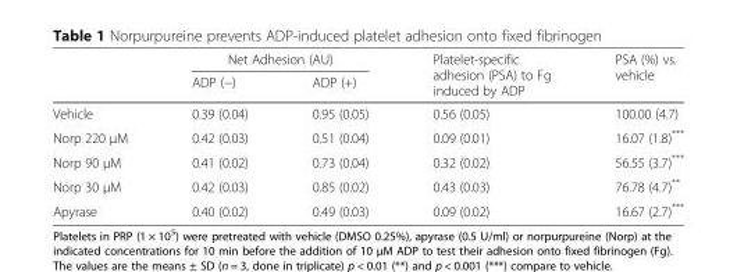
<table><thead><tr><td rowspan="2"></td><td colspan="2">Net Adhesion (AU)</td><td rowspan="2">Platelet-specific adhesion (PSA) to Fg induced by ADP</td><td rowspan="2">PSA (%) vs. vehicle</td></tr><tr><td>ADP (−)</td><td>ADP (+)</td></tr></thead><tbody><tr><td>Vehicle</td><td>0.39 (0.04)</td><td>0.95 (0.05)</td><td>0.56 (0.05)</td><td>100.00 (4.7)</td></tr><tr><td>Norp 220 μM</td><td>0.42 (0.03)</td><td>0.51 (0.04)</td><td>0.09 (0.01)</td><td>16.07 (1.8)***</td></tr><tr><td>Norp 90 μM</td><td>0.41 (0.02)</td><td>0.73 (0.04)</td><td>0.32 (0.02)</td><td>56.55 (3.7)***</td></tr><tr><td>Norp 30 μM</td><td>0.42 (0.03)</td><td>0.85 (0.02)</td><td>0.43 (0.03)</td><td>76.78 (4.7)**</td></tr><tr><td>Apyrase</td><td>0.40 (0.02)</td><td>0.49 (0.03)</td><td>0.09 (0.02)</td><td>16.67 (2.7)***</td></tr></tbody></table>